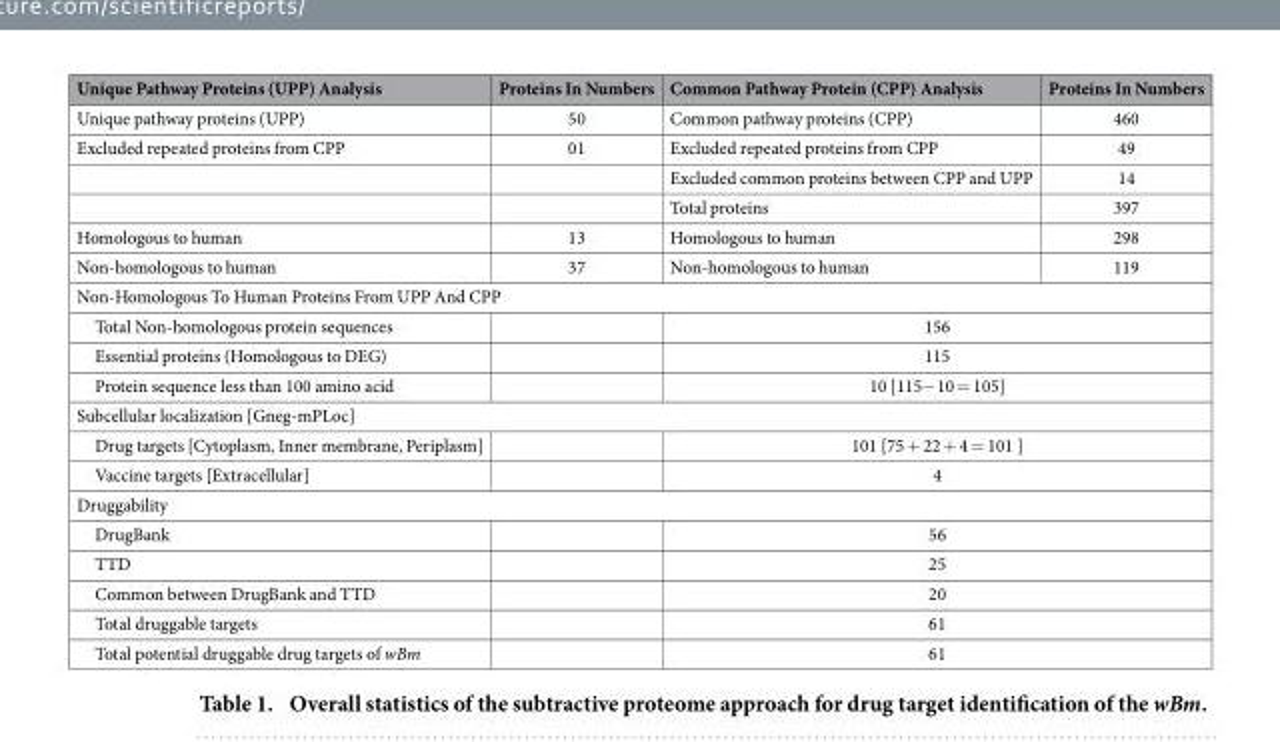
<table><thead><tr><td>Unique Pathway Proteins (UPP) Analysis</td><td>Proteins In Numbers</td><td>Common Pathway Protein (CPP) Analysis</td><td>Proteins In Numbers</td></tr></thead><tbody><tr><td>Unique pathway proteins (UPP)</td><td>50</td><td>Common pathway proteins (CPP)</td><td>460</td></tr><tr><td rowspan="3">Excluded repeated proteins from CPP</td><td>01</td><td>Excluded repeated proteins from CPP</td><td>49</td></tr><tr><td></td><td>Excluded common proteins between CPP and UPP</td><td>14</td></tr><tr><td></td><td>Total proteins</td><td>397</td></tr><tr><td>Homologous to human</td><td>13</td><td>Homologous to human</td><td>298</td></tr><tr><td>Non-homologous to human</td><td>37</td><td>Non-homologous to human</td><td>119</td></tr><tr><td colspan="4">Non-Homologous To Human Proteins From UPP And CPP</td></tr><tr><td>Total Non-homologous protein sequences</td><td></td><td colspan="2">156</td></tr><tr><td>Essential proteins (Homologous to DEG)</td><td></td><td colspan="2">115</td></tr><tr><td>Protein sequence less than 100 amino acid</td><td></td><td colspan="2">10 [115− 10 = 105]</td></tr><tr><td colspan="4">Subcellular localization [Gneg-mPLoc]</td></tr><tr><td>Drug targets [Cytoplasm, Inner membrane, Periplasm]</td><td></td><td colspan="2">101 [75 + 22 + 4 = 101 ]</td></tr><tr><td>Vaccine targets [Extracellular]</td><td></td><td colspan="2">4</td></tr><tr><td colspan="4">Druggability</td></tr><tr><td>DrugBank</td><td></td><td colspan="2">56</td></tr><tr><td>TTD</td><td></td><td colspan="2">25</td></tr><tr><td>Common between DrugBank and TTD</td><td></td><td colspan="2">20</td></tr><tr><td>Total druggable targets</td><td></td><td colspan="2">61</td></tr><tr><td>Total potential druggable drug targets of wBm</td><td></td><td colspan="2">61</td></tr></tbody></table>